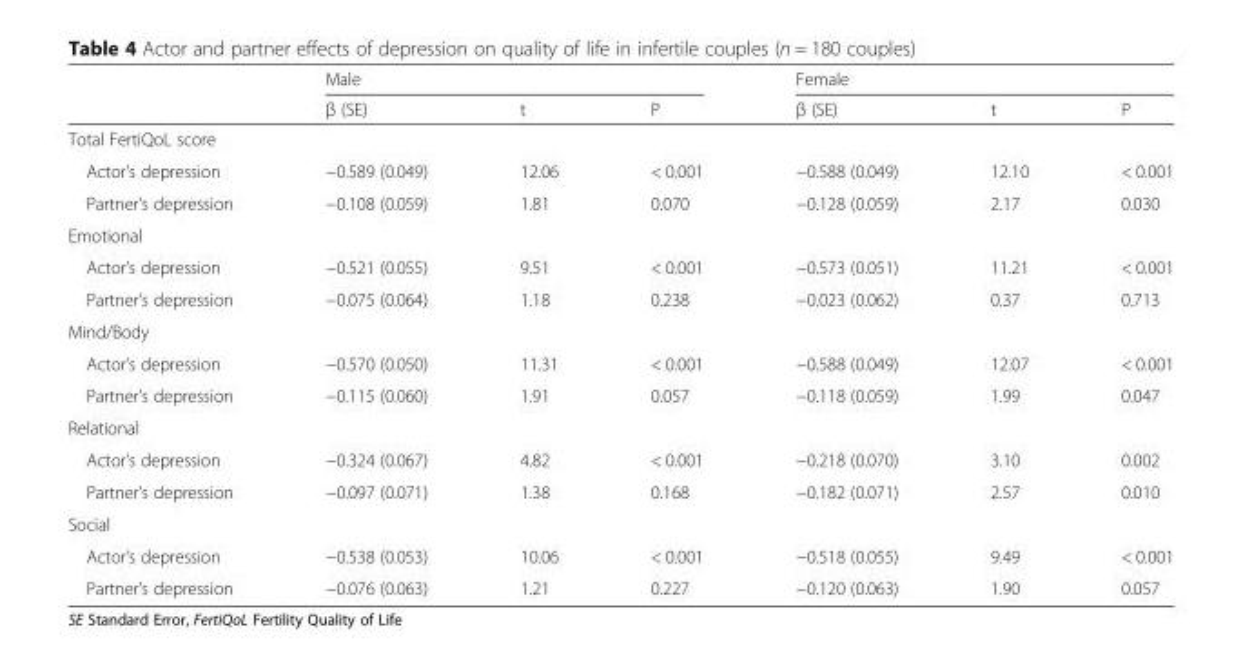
<table><thead><tr><td rowspan="2"></td><td colspan="3">Male</td><td colspan="3">Female</td></tr><tr><td>β (SE)</td><td>t</td><td>P</td><td>β (SE)</td><td>t</td><td>P</td></tr></thead><tbody><tr><td colspan="7">Total FertiQoL score</td></tr><tr><td>Actor’s depression</td><td>−0.589 (0.049)</td><td>12.06</td><td>&lt; 0.001</td><td>−0.588 (0.049)</td><td>12.10</td><td>&lt; 0.001</td></tr><tr><td>Partner’s depression</td><td>−0.108 (0.059)</td><td>1.81</td><td>0.070</td><td>−0.128 (0.059)</td><td>2.17</td><td>0.030</td></tr><tr><td colspan="7">Emotional</td></tr><tr><td>Actor’s depression</td><td>−0.521 (0.055)</td><td>9.51</td><td>&lt; 0.001</td><td>−0.573 (0.051)</td><td>11.21</td><td>&lt; 0.001</td></tr><tr><td>Partner’s depression</td><td>−0.075 (0.064)</td><td>1.18</td><td>0.238</td><td>−0.023 (0.062)</td><td>0.37</td><td>0.713</td></tr><tr><td colspan="7">Mind/Body</td></tr><tr><td>Actor’s depression</td><td>−0.570 (0.050)</td><td>11.31</td><td>&lt; 0.001</td><td>−0.588 (0.049)</td><td>12.07</td><td>&lt; 0.001</td></tr><tr><td>Partner’s depression</td><td>−0.115 (0.060)</td><td>1.91</td><td>0.057</td><td>−0.118 (0.059)</td><td>1.99</td><td>0.047</td></tr><tr><td colspan="7">Relational</td></tr><tr><td>Actor’s depression</td><td>−0.324 (0.067)</td><td>4.82</td><td>&lt; 0.001</td><td>−0.218 (0.070)</td><td>3.10</td><td>0.002</td></tr><tr><td>Partner’s depression</td><td>−0.097 (0.071)</td><td>1.38</td><td>0.168</td><td>−0.182 (0.071)</td><td>2.57</td><td>0.010</td></tr><tr><td colspan="7">Social</td></tr><tr><td>Actor’s depression</td><td>−0.538 (0.053)</td><td>10.06</td><td>&lt; 0.001</td><td>−0.518 (0.055)</td><td>9.49</td><td>&lt; 0.001</td></tr><tr><td>Partner’s depression</td><td>−0.076 (0.063)</td><td>1.21</td><td>0.227</td><td>−0.120 (0.063)</td><td>1.90</td><td>0.057</td></tr></tbody></table>